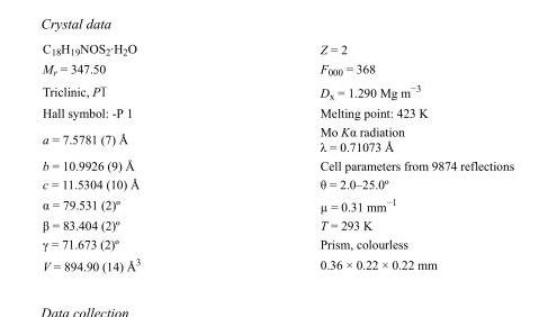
<table><tbody><tr><td>C<sub>18</sub>H<sub>19</sub>NOS<sub>2</sub>·H<sub>2</sub>O</td><td>Z = 2</td></tr><tr><td>M<sub>r</sub> = 347.50</td><td>F000 = 368</td></tr><tr><td>Triclinic, P1</td><td>D<sub>x</sub> = 1.290 Mg m<sup>−3</sup></td></tr><tr><td>Hall symbol: -P 1</td><td>Melting point: 423 K</td></tr><tr><td>a = 7.5781 (7) Å</td><td>Mo Kα radiation λ = 0.71073 Å</td></tr><tr><td>b = 10.9926 (9) Å</td><td>Cell parameters from 9874 reflections</td></tr><tr><td>c = 11.5304 (10) Å</td><td>θ = 2.0–25.0º</td></tr><tr><td>α = 79.531 (2)º</td><td>µ = 0.31 mm<sup>−1</sup></td></tr><tr><td>β = 83.404 (2)º</td><td>T = 293 K</td></tr><tr><td>γ = 71.673 (2)º</td><td>Prism, colourless</td></tr><tr><td>V = 894.90 (14) Å<sup>3</sup></td><td>0.36 × 0.22 × 0.22 mm</td></tr></tbody></table>